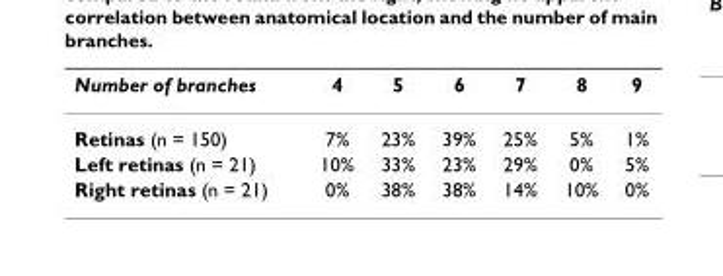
<table><thead><tr><td>Number of branches</td><td>4</td><td>5</td><td>6</td><td>7</td><td>8</td><td>9</td></tr></thead><tbody><tr><td>Retinas (n = 150)</td><td>7%</td><td>23%</td><td>39%</td><td>25%</td><td>5%</td><td>1%</td></tr><tr><td>Left retinas (n = 21)</td><td>10%</td><td>33%</td><td>23%</td><td>29%</td><td>0%</td><td>5%</td></tr><tr><td>Right retinas (n = 21)</td><td>0%</td><td>38%</td><td>38%</td><td>14%</td><td>10%</td><td>0%</td></tr></tbody></table>